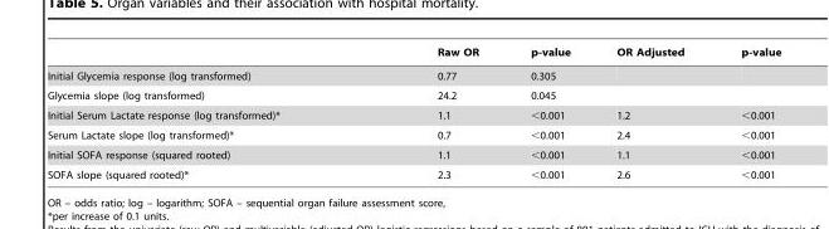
<table><thead><tr><td></td><td>Raw OR</td><td>p-value</td><td>OR Adjusted</td><td>p-value</td></tr></thead><tbody><tr><td>Initial Glycemia response (log transformed)</td><td>0.77</td><td>0.305</td><td></td><td></td></tr><tr><td>Glycemia slope (log transformed)</td><td>24.2</td><td>0.045</td><td></td><td></td></tr><tr><td>Initial Serum Lactate response (log transformed)*</td><td>1.1</td><td>&lt;0.001</td><td>1.2</td><td>&lt;0.001</td></tr><tr><td>Serum Lactate slope (log transformed)*</td><td>0.7</td><td>&lt;0.001</td><td>2.4</td><td>&lt;0.001</td></tr><tr><td>Initial SOFA response (squared rooted)</td><td>1.1</td><td>&lt;0.001</td><td>1.1</td><td>&lt;0.001</td></tr><tr><td>SOFA slope (squared rooted)*</td><td>2.3</td><td>&lt;0.001</td><td>2.6</td><td>&lt;0.001</td></tr></tbody></table>